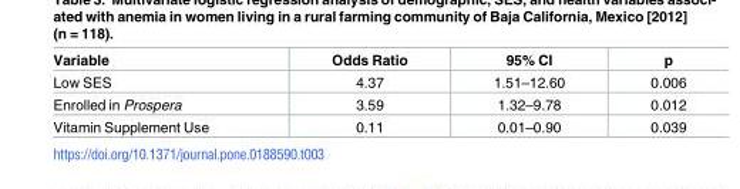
<table><thead><tr><td>Variable</td><td>Odds Ratio</td><td>95% CI</td><td>p</td></tr></thead><tbody><tr><td>Low SES</td><td>4.37</td><td>1.51–12.60</td><td>0.006</td></tr><tr><td>Enrolled in Prospera</td><td>3.59</td><td>1.32–9.78</td><td>0.012</td></tr><tr><td>Vitamin Supplement Use</td><td>0.11</td><td>0.01–0.90</td><td>0.039</td></tr></tbody></table>